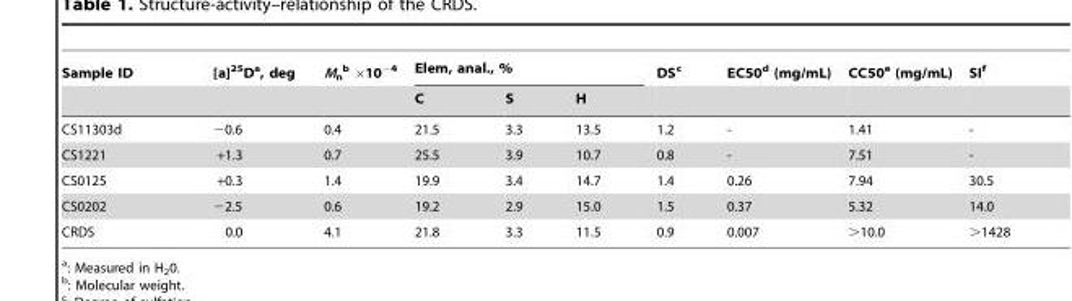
<table><thead><tr><td rowspan="2">Sample ID</td><td rowspan="2">[a]<sup>25</sup>D<sup>a</sup>, deg</td><td rowspan="2">M<sub>n</sub> b ×10<sup>−4</sup></td><td colspan="3">Elem, anal., %</td><td rowspan="2">DS<sup>c</sup></td><td rowspan="2">EC50<sup>d</sup> (mg/mL)</td><td rowspan="2">CC50<sup>e</sup> (mg/mL)</td><td rowspan="2">SI<sup>f</sup></td></tr><tr><td>C</td><td>S</td><td>H</td></tr></thead><tbody><tr><td>CS11303d</td><td>−0.6</td><td>0.4</td><td>21.5</td><td>3.3</td><td>13.5</td><td>1.2</td><td>-</td><td>1.41</td><td>-</td></tr><tr><td>CS1221</td><td>+1.3</td><td>0.7</td><td>25.5</td><td>3.9</td><td>10.7</td><td>0.8</td><td>-</td><td>7.51</td><td>-</td></tr><tr><td>CS0125</td><td>+0.3</td><td>1.4</td><td>19.9</td><td>3.4</td><td>14.7</td><td>1.4</td><td>0.26</td><td>7.94</td><td>30.5</td></tr><tr><td>CS0202</td><td>−2.5</td><td>0.6</td><td>19.2</td><td>2.9</td><td>15.0</td><td>1.5</td><td>0.37</td><td>5.32</td><td>14.0</td></tr><tr><td>CRDS</td><td>0.0</td><td>4.1</td><td>21.8</td><td>3.3</td><td>11.5</td><td>0.9</td><td>0.007</td><td>&gt;10.0</td><td>&gt;1428</td></tr></tbody></table>